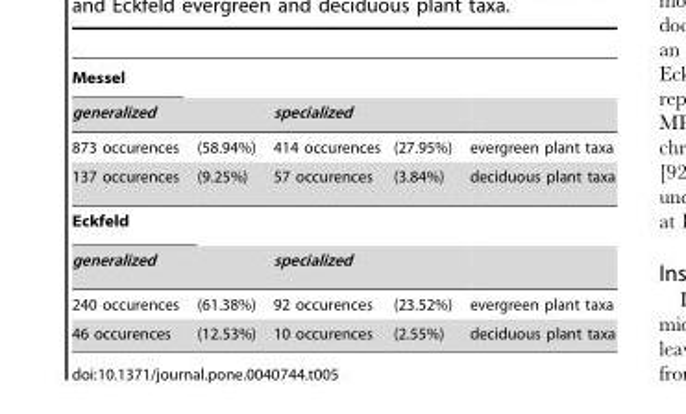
<table><thead><tr><td>Messel</td><td></td><td></td><td></td><td rowspan="2"></td></tr><tr><td colspan="2">generalized</td><td colspan="2">specialized</td></tr></thead><tbody><tr><td>873 occurences</td><td>(58.94%)</td><td>414 occurences</td><td>(27.95%)</td><td>evergreen plant taxa</td></tr><tr><td>137 occurences</td><td>(9.25%)</td><td>57 occurences</td><td>(3.84%)</td><td>deciduous plant taxa</td></tr><tr><td colspan="5">Eckfeld</td></tr><tr><td colspan="2">generalized</td><td colspan="2">specialized</td><td></td></tr><tr><td>240 occurences</td><td>(61.38%)</td><td>92 occurences</td><td>(23.52%)</td><td>evergreen plant taxa</td></tr><tr><td>46 occurences</td><td>(12.53%)</td><td>10 occurences</td><td>(2.55%)</td><td>deciduous plant taxa</td></tr></tbody></table>